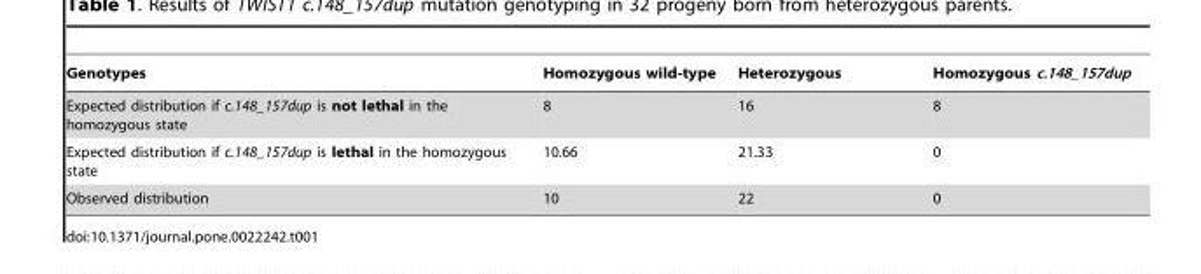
<table><thead><tr><td>Genotypes</td><td>Homozygous wild-type</td><td>Heterozygous</td><td>Homozygous c.148_157dup</td></tr></thead><tbody><tr><td>Expected distribution if c.148_157dup is not lethal in the homozygous state</td><td>8</td><td>16</td><td>8</td></tr><tr><td>Expected distribution if c.148_157dup is lethal in the homozygous state</td><td>10.66</td><td>21.33</td><td>0</td></tr><tr><td>Observed distribution</td><td>10</td><td>22</td><td>0</td></tr></tbody></table>